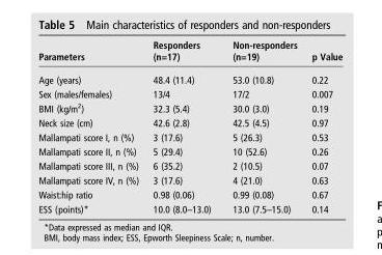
<table><thead><tr><td>Parameters</td><td>Responders (n=17)</td><td>Non-responders (n=19)</td><td>p Value</td></tr></thead><tbody><tr><td>Age (years)</td><td>48.4 (11.4)</td><td>53.0 (10.8)</td><td>0.22</td></tr><tr><td>Sex (males/females)</td><td>13/4</td><td>17/2</td><td>0.007</td></tr><tr><td>BMI (kg/m<sup>2</sup>)</td><td>32.3 (5.4)</td><td>30.0 (3.0)</td><td>0.19</td></tr><tr><td>Neck size (cm)</td><td>42.6 (2.8)</td><td>42.5 (4.5)</td><td>0.97</td></tr><tr><td>Mallampati score I, n (%)</td><td>3 (17.6)</td><td>5 (26.3)</td><td>0.53</td></tr><tr><td>Mallampati score II, n (%)</td><td>5 (29.4)</td><td>10 (52.6)</td><td>0.26</td></tr><tr><td>Mallampati score III, n (%)</td><td>6 (35.2)</td><td>2 (10.5)</td><td>0.07</td></tr><tr><td>Mallampati score IV, n (%)</td><td>3 (17.6)</td><td>4 (21.0)</td><td>0.63</td></tr><tr><td>Waist:hip ratio</td><td>0.98 (0.06)</td><td>0.99 (0.08)</td><td>0.67</td></tr><tr><td>ESS (points)*</td><td>10.0 (8.0–13.0)</td><td>13.0 (7.5–15.0)</td><td>0.14</td></tr></tbody></table>